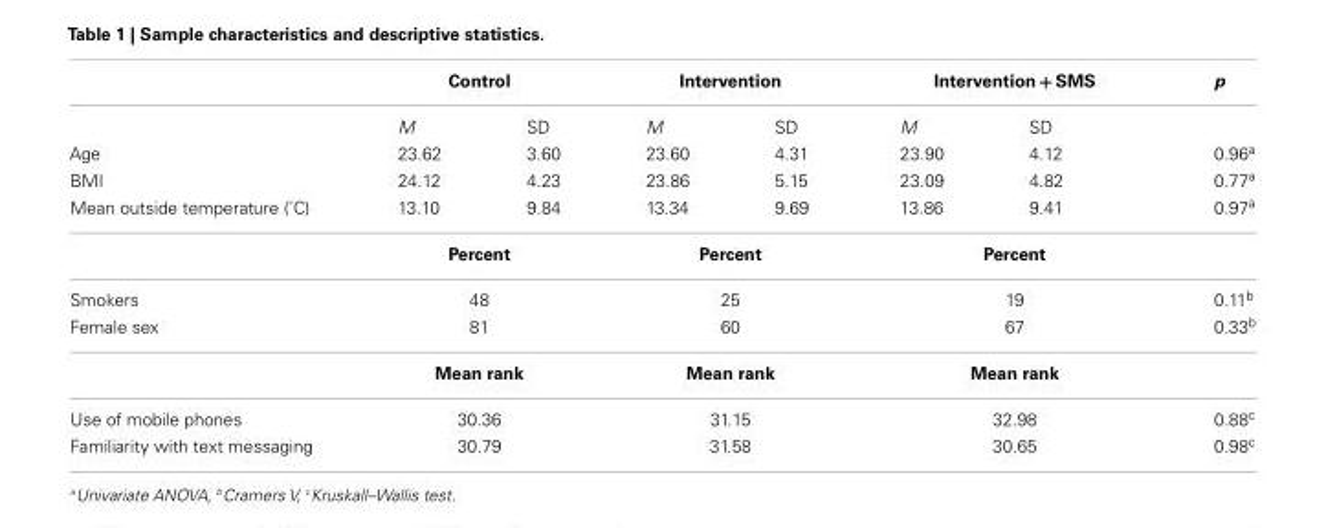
<table><thead><tr><td rowspan="2"></td><td colspan="2">Control</td><td colspan="2">Intervention</td><td colspan="2">Intervention + SMS</td><td rowspan="2">p</td></tr><tr><td>M</td><td>SD</td><td>M</td><td>SD</td><td>M</td><td>SD</td></tr></thead><tbody><tr><td>Age</td><td>23.62</td><td>3.60</td><td>23.60</td><td>4.31</td><td>23.90</td><td>4.12</td><td>0.96<sup>a</sup></td></tr><tr><td>BMI</td><td>24.12</td><td>4.23</td><td>23.86</td><td>5.15</td><td>23.09</td><td>4.82</td><td>0.77<sup>a</sup></td></tr><tr><td rowspan="2">Mean outside temperature (˚C)</td><td>13.10</td><td>9.84</td><td>13.34</td><td>9.69</td><td>13.86</td><td>9.41</td><td>0.97<sup>a</sup></td></tr><tr><td colspan="2">Percent</td><td colspan="2">Percent</td><td colspan="2">Percent</td><td></td></tr><tr><td>Smokers</td><td colspan="2">48</td><td colspan="2">25</td><td colspan="2">19</td><td>0.11<sup>b</sup></td></tr><tr><td rowspan="2">Female sex</td><td colspan="2">81</td><td colspan="2">60</td><td colspan="2">67</td><td>0.33<sup>b</sup></td></tr><tr><td colspan="2">Mean rank</td><td colspan="2">Mean rank</td><td colspan="2">Mean rank</td><td></td></tr><tr><td>Use of mobile phones</td><td colspan="2">30.36</td><td colspan="2">31.15</td><td colspan="2">32.98</td><td>0.88<sup>c</sup></td></tr><tr><td>Familiarity with text messaging</td><td colspan="2">30.79</td><td colspan="2">31.58</td><td colspan="2">30.65</td><td>0.98<sup>c</sup></td></tr></tbody></table>